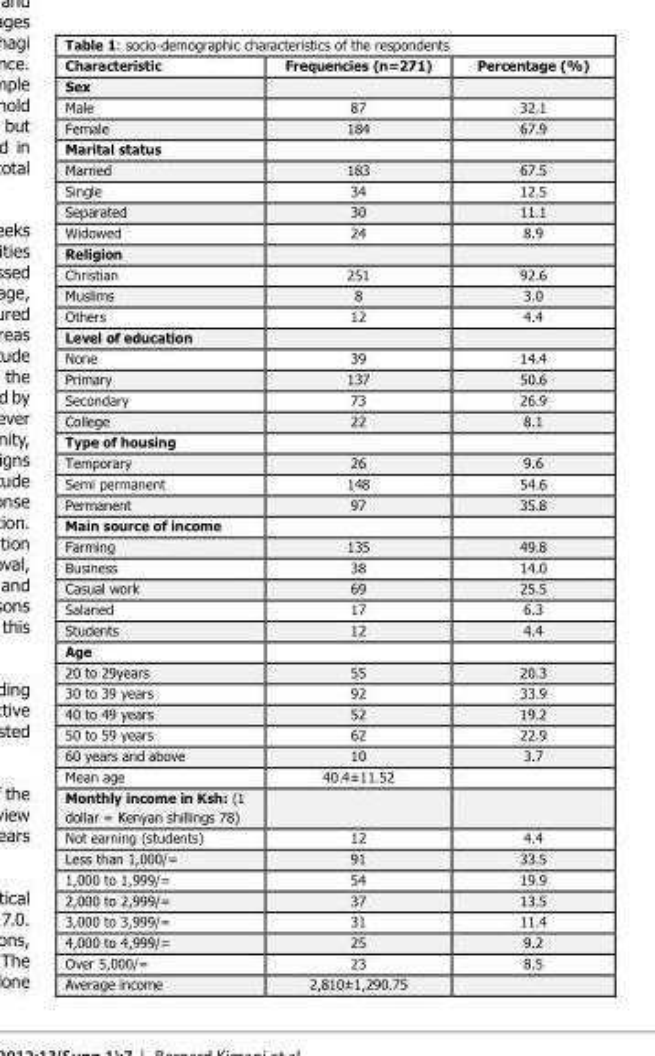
<table><thead><tr><td>Characteristic</td><td>Frequencies (n=271)</td><td>Percentage (%)</td></tr></thead><tbody><tr><td colspan="3">Sex</td></tr><tr><td>Male</td><td>87</td><td>32.1</td></tr><tr><td>Female</td><td>184</td><td>67.9</td></tr><tr><td colspan="3">Marital status</td></tr><tr><td>Married</td><td>183</td><td>67.5</td></tr><tr><td>Single</td><td>34</td><td>12.5</td></tr><tr><td>Separated</td><td>30</td><td>11.1</td></tr><tr><td>Widowed</td><td>24</td><td>8.9</td></tr><tr><td colspan="3">Religion</td></tr><tr><td>Christian</td><td>251</td><td>92.6</td></tr><tr><td>Muslims</td><td>8</td><td>3.0</td></tr><tr><td>Others</td><td>12</td><td>4.4</td></tr><tr><td colspan="3">Level of education</td></tr><tr><td>None</td><td>39</td><td>14.4</td></tr><tr><td>Primary</td><td>137</td><td>50.6</td></tr><tr><td>Secondary</td><td>73</td><td>26.9</td></tr><tr><td>College</td><td>22</td><td>8.1</td></tr><tr><td colspan="3">Type of housing</td></tr><tr><td>Temporary</td><td>26</td><td>9.6</td></tr><tr><td>Semi permanent</td><td>148</td><td>54.6</td></tr><tr><td>Permanent</td><td>97</td><td>35.8</td></tr><tr><td colspan="3">Main source of income</td></tr><tr><td>Farming</td><td>135</td><td>49.8</td></tr><tr><td>Business</td><td>38</td><td>14.0</td></tr><tr><td>Casual work</td><td>69</td><td>25.5</td></tr><tr><td>Salaried</td><td>17</td><td>6.3</td></tr><tr><td>Students</td><td>12</td><td>4.4</td></tr><tr><td colspan="3">Age</td></tr><tr><td>20 to 29years</td><td>55</td><td>20.3</td></tr><tr><td>30 to 39 years</td><td>92</td><td>33.9</td></tr><tr><td>40 to 49 years</td><td>52</td><td>19.2</td></tr><tr><td>50 to 59 years</td><td>62</td><td>22.9</td></tr><tr><td>60 years and above</td><td>10</td><td>3.7</td></tr><tr><td>Mean age</td><td>40.4±11.52</td><td></td></tr><tr><td colspan="3">Monthly income in Ksh: (1 dollar = Kenyan shillings 78)</td></tr><tr><td>Not earning (students)</td><td>12</td><td>4.4</td></tr><tr><td>Less than 1,000/=</td><td>91</td><td>33.5</td></tr><tr><td>1,000 to 1,999/=</td><td>54</td><td>19.9</td></tr><tr><td>2,000 to 2,999/=</td><td>37</td><td>13.5</td></tr><tr><td>3,000 to 3,999/=</td><td>31</td><td>11.4</td></tr><tr><td>4,000 to 4,999/=</td><td>25</td><td>9.2</td></tr><tr><td>Over 5,000/=</td><td>23</td><td>8.5</td></tr><tr><td>Average income</td><td>2,810±1,290.75</td><td></td></tr></tbody></table>